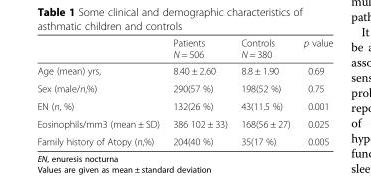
<table><thead><tr><td></td><td>Patients N = 506</td><td>Controls N = 380</td><td>p value</td></tr></thead><tbody><tr><td>Age (mean) yrs,</td><td>8.40 ± 2.60</td><td>8.8 ± 1.90</td><td>0.69</td></tr><tr><td>Sex (male/n,%)</td><td>290(57 %)</td><td>198(52 %)</td><td>0.75</td></tr><tr><td>EN (n, %)</td><td>132(26 %)</td><td>43(11.5 %)</td><td>0.001</td></tr><tr><td>Eosinophils/mm3 (mean ± SD)</td><td>386 102 ± 33)</td><td>168(56 ± 27)</td><td>0.025</td></tr><tr><td>Family history of Atopy (n,%)</td><td>204(40 %)</td><td>35(17 %)</td><td>0.005</td></tr></tbody></table>